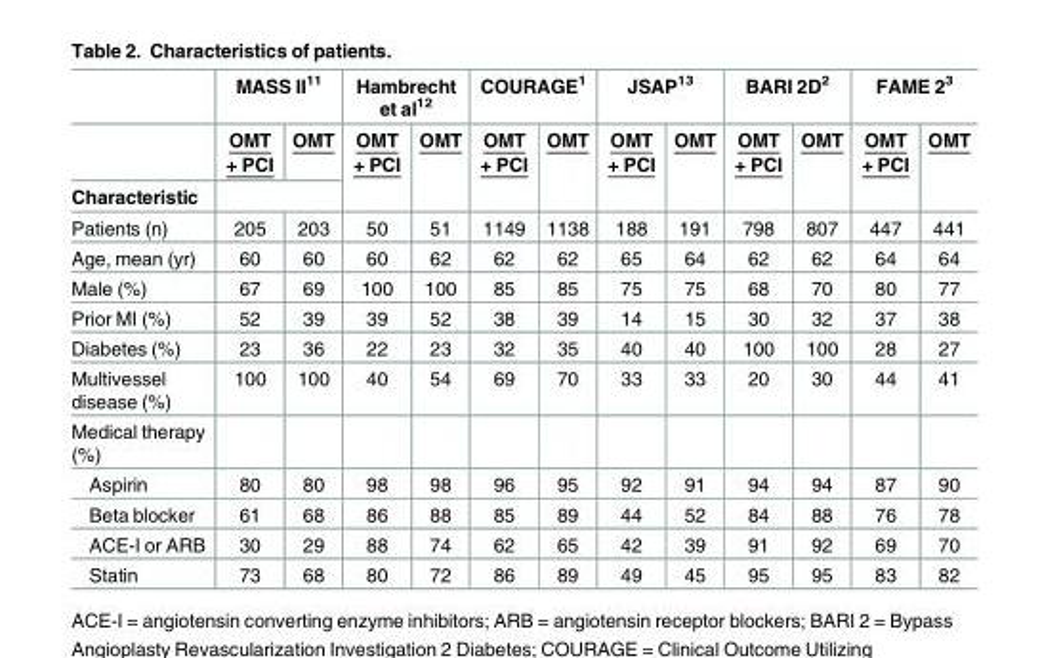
<table><thead><tr><td rowspan="3">Characteristic</td><td colspan="2">MASS II<sup>11</sup></td><td colspan="2">Hambrecht et al<sup>12</sup></td><td colspan="2">COURAGE<sup>1</sup></td><td colspan="2">JSAP<sup>13</sup></td><td colspan="2">BARI 2D<sup>2</sup></td><td colspan="2">FAME 2<sup>3</sup></td></tr><tr><td rowspan="2">OMT + PCI</td><td rowspan="2">OMT</td><td rowspan="2">OMT + PCI</td><td rowspan="2">OMT</td><td rowspan="2">OMT + PCI</td><td rowspan="2">OMT</td><td rowspan="2">OMT + PCI</td><td rowspan="2">OMT</td><td rowspan="2">OMT + PCI</td><td rowspan="2">OMT</td><td rowspan="2">OMT + PCI</td><td rowspan="2">OMT</td></tr><tr></tr></thead><tbody><tr><td>Patients (n)</td><td>205</td><td>203</td><td>50</td><td>51</td><td>1149</td><td>1138</td><td>188</td><td>191</td><td>798</td><td>807</td><td>447</td><td>441</td></tr><tr><td>Age, mean (yr)</td><td>60</td><td>60</td><td>60</td><td>62</td><td>62</td><td>62</td><td>65</td><td>64</td><td>62</td><td>62</td><td>64</td><td>64</td></tr><tr><td>Male (%)</td><td>67</td><td>69</td><td>100</td><td>100</td><td>85</td><td>85</td><td>75</td><td>75</td><td>68</td><td>70</td><td>80</td><td>77</td></tr><tr><td>Prior MI (%)</td><td>52</td><td>39</td><td>39</td><td>52</td><td>38</td><td>39</td><td>14</td><td>15</td><td>30</td><td>32</td><td>37</td><td>38</td></tr><tr><td>Diabetes (%)</td><td>23</td><td>36</td><td>22</td><td>23</td><td>32</td><td>35</td><td>40</td><td>40</td><td>100</td><td>100</td><td>28</td><td>27</td></tr><tr><td>Multivessel disease (%)</td><td>100</td><td>100</td><td>40</td><td>54</td><td>69</td><td>70</td><td>33</td><td>33</td><td>20</td><td>30</td><td>44</td><td>41</td></tr><tr><td colspan="13">Medical therapy (%)</td></tr><tr><td>Aspirin</td><td>80</td><td>80</td><td>98</td><td>98</td><td>96</td><td>95</td><td>92</td><td>91</td><td>94</td><td>94</td><td>87</td><td>90</td></tr><tr><td>Beta blocker</td><td>61</td><td>68</td><td>86</td><td>88</td><td>85</td><td>89</td><td>44</td><td>52</td><td>84</td><td>88</td><td>76</td><td>78</td></tr><tr><td>ACE-I or ARB</td><td>30</td><td>29</td><td>88</td><td>74</td><td>62</td><td>65</td><td>42</td><td>39</td><td>91</td><td>92</td><td>69</td><td>70</td></tr><tr><td>Statin</td><td>73</td><td>68</td><td>80</td><td>72</td><td>86</td><td>89</td><td>49</td><td>45</td><td>95</td><td>95</td><td>83</td><td>82</td></tr></tbody></table>